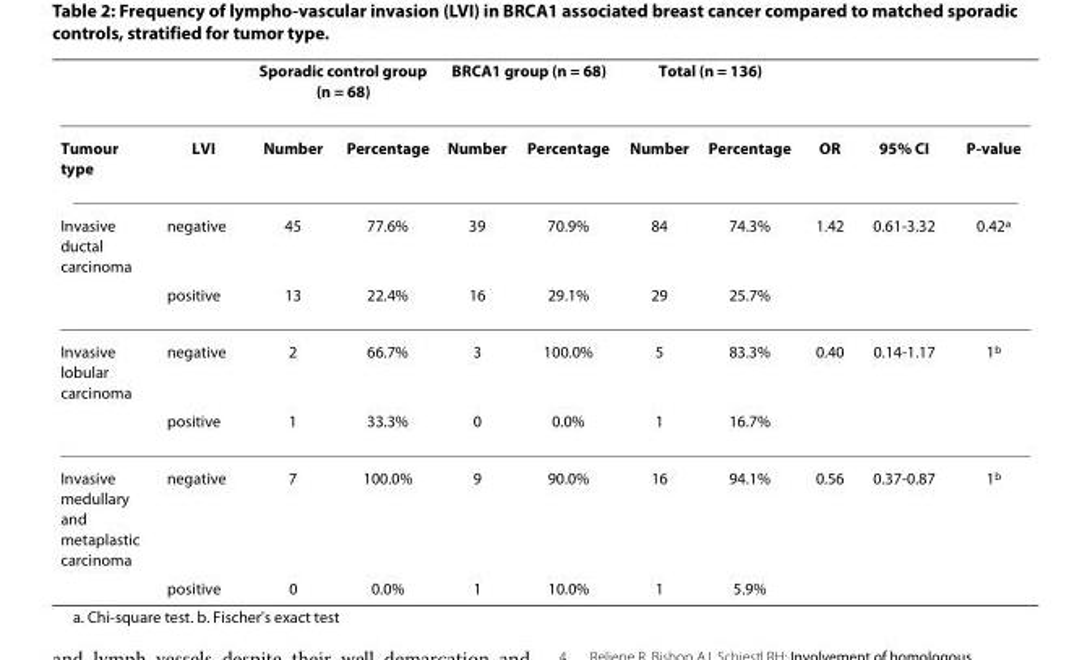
<table><thead><tr><td rowspan="2">Tumour type</td><td rowspan="2">LVI</td><td colspan="2">Sporadic control group (n = 68)</td><td colspan="2">BRCA1 group (n = 68)</td><td colspan="2">Total (n = 136)</td><td rowspan="2">OR</td><td rowspan="2">95% CI</td><td rowspan="2">P-value</td></tr><tr><td>Number</td><td>Percentage</td><td>Number</td><td>Percentage</td><td>Number</td><td>Percentage</td></tr></thead><tbody><tr><td rowspan="2">Invasive ductal carcinoma</td><td>negative</td><td>45</td><td>77.6%</td><td>39</td><td>70.9%</td><td>84</td><td>74.3%</td><td>1.42</td><td>0.61-3.32</td><td>0.42<sup>a</sup></td></tr><tr><td>positive</td><td>13</td><td>22.4%</td><td>16</td><td>29.1%</td><td>29</td><td>25.7%</td><td></td><td></td><td></td></tr><tr><td rowspan="2">Invasive lobular carcinoma</td><td>negative</td><td>2</td><td>66.7%</td><td>3</td><td>100.0%</td><td>5</td><td>83.3%</td><td>0.40</td><td>0.14-1.17</td><td>1<sup>b</sup></td></tr><tr><td>positive</td><td>1</td><td>33.3%</td><td>0</td><td>0.0%</td><td>1</td><td>16.7%</td><td></td><td></td><td></td></tr><tr><td rowspan="2">Invasive medullary and metaplastic carcinoma</td><td>negative</td><td>7</td><td>100.0%</td><td>9</td><td>90.0%</td><td>16</td><td>94.1%</td><td>0.56</td><td>0.37-0.87</td><td>1<sup>b</sup></td></tr><tr><td>positive</td><td>0</td><td>0.0%</td><td>1</td><td>10.0%</td><td>1</td><td>5.9%</td><td></td><td></td><td></td></tr></tbody></table>